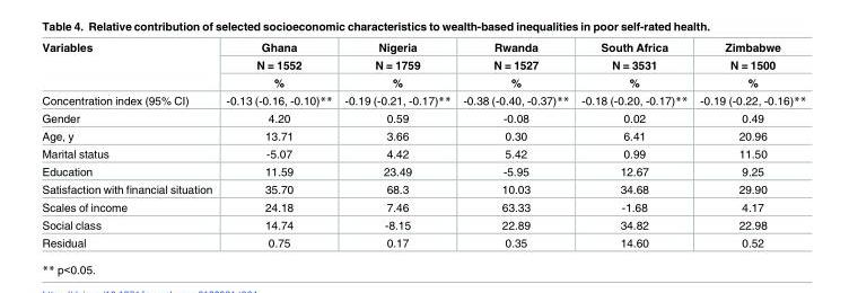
<table><thead><tr><td rowspan="3">Variables</td><td rowspan="3">Ghana N = 1552 %</td><td rowspan="3">Nigeria N = 1759 %</td><td rowspan="3">Rwanda N = 1527 %</td><td rowspan="3">South Africa N = 3531 %</td><td rowspan="3">Zimbabwe N = 1500 %</td></tr><tr></tr><tr></tr></thead><tbody><tr><td>Concentration index (95% CI)</td><td>-0.13 (-0.16, -0.10)**</td><td>-0.19 (-0.21, -0.17)**</td><td>-0.38 (-0.40, -0.37)**</td><td>-0.18 (-0.20, -0.17)**</td><td>-0.19 (-0.22, -0.16)**</td></tr><tr><td>Gender</td><td>4.20</td><td>0.59</td><td>-0.08</td><td>0.02</td><td>0.49</td></tr><tr><td>Age, y</td><td>13.71</td><td>3.66</td><td>0.30</td><td>6.41</td><td>20.96</td></tr><tr><td>Marital status</td><td>-5.07</td><td>4.42</td><td>5.42</td><td>0.99</td><td>11.50</td></tr><tr><td>Education</td><td>11.59</td><td>23.49</td><td>-5.95</td><td>12.67</td><td>9.25</td></tr><tr><td>Satisfaction with financial situation</td><td>35.70</td><td>68.3</td><td>10.03</td><td>34.68</td><td>29.90</td></tr><tr><td>Scales of income</td><td>24.18</td><td>7.46</td><td>63.33</td><td>-1.68</td><td>4.17</td></tr><tr><td>Social class</td><td>14.74</td><td>-8.15</td><td>22.89</td><td>34.82</td><td>22.98</td></tr><tr><td>Residual</td><td>0.75</td><td>0.17</td><td>0.35</td><td>14.60</td><td>0.52</td></tr></tbody></table>